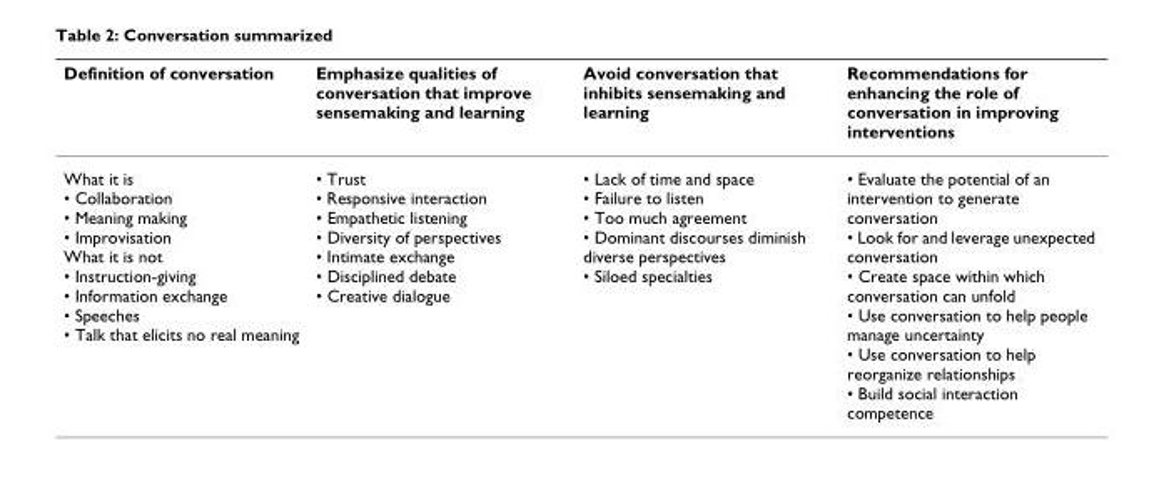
<table><thead><tr><td>Definition of conversation</td><td>Emphasize qualities of conversation that improve sensemaking and learning</td><td>Avoid conversation that inhibits sensemaking and learning</td><td>Recommendations for enhancing the role of conversation in improving interventions</td></tr></thead><tbody><tr><td>What it is • Collaboration • Meaning making • Improvisation What it is not • Instruction-giving • Information exchange • Speeches • Talk that elicits no real meaning</td><td>• Trust • Responsive interaction • Empathetic listening • Diversity of perspectives • Intimate exchange • Disciplined debate • Creative dialogue</td><td>• Lack of time and space • Failure to listen • Too much agreement • Dominant discourses diminish diverse perspectives • Siloed specialties</td><td>• Evaluate the potential of an intervention to generate conversation • Look for and leverage unexpected conversation • Create space within which conversation can unfold • Use conversation to help people manage uncertainty • Use conversation to help reorganize relationships • Build social interaction competence</td></tr></tbody></table>